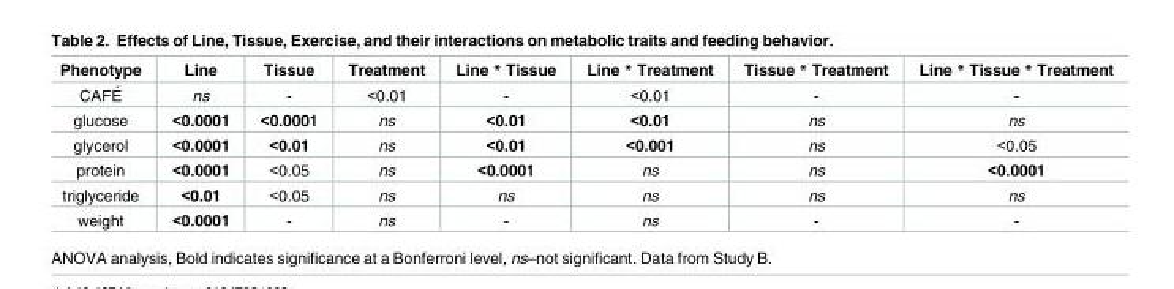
<table><thead><tr><td>Phenotype</td><td>Line</td><td>Tissue</td><td>Treatment</td><td>Line * Tissue</td><td>Line * Treatment</td><td>Tissue * Treatment</td><td>Line * Tissue * Treatment</td></tr></thead><tbody><tr><td>CAFE´</td><td>ns</td><td>-</td><td>&lt;0.01</td><td>-</td><td>&lt;0.01</td><td>-</td><td>-</td></tr><tr><td>glucose</td><td>&lt;0.0001</td><td>&lt;0.0001</td><td>ns</td><td>&lt;0.01</td><td>&lt;0.01</td><td>ns</td><td>ns</td></tr><tr><td>glycerol</td><td>&lt;0.0001</td><td>&lt;0.01</td><td>ns</td><td>&lt;0.01</td><td>&lt;0.001</td><td>ns</td><td>&lt;0.05</td></tr><tr><td>protein</td><td>&lt;0.0001</td><td>&lt;0.05</td><td>ns</td><td>&lt;0.0001</td><td>ns</td><td>ns</td><td>&lt;0.0001</td></tr><tr><td>triglyceride</td><td>&lt;0.01</td><td>&lt;0.05</td><td>ns</td><td>ns</td><td>ns</td><td>ns</td><td>ns</td></tr><tr><td>weight</td><td>&lt;0.0001</td><td>-</td><td>ns</td><td>-</td><td>ns</td><td>-</td><td>-</td></tr></tbody></table>